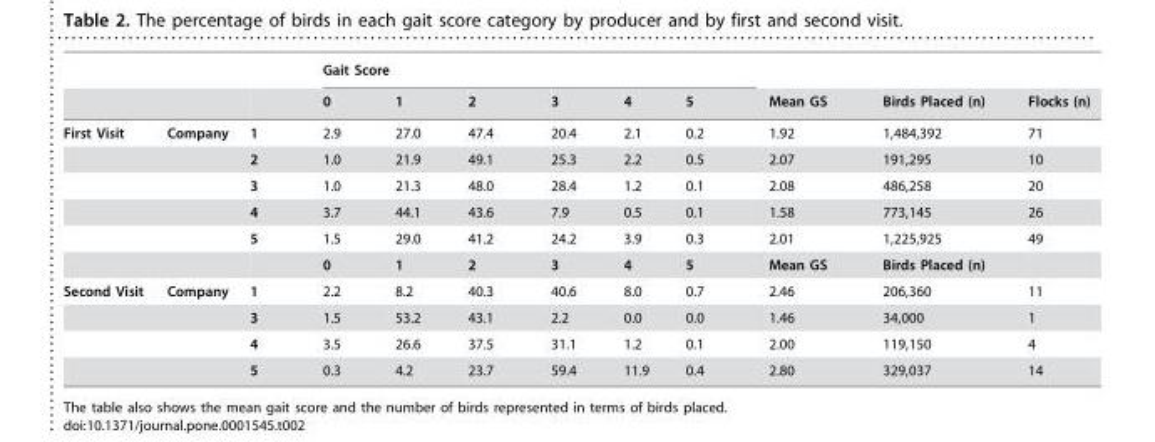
<table><thead><tr><td rowspan="2"></td><td rowspan="2"></td><td rowspan="2"></td><td colspan="6">Gait Score</td><td rowspan="2">Mean GS</td><td rowspan="2">Birds Placed (n)</td><td rowspan="2">Flocks (n)</td></tr><tr><td>0</td><td>1</td><td>2</td><td>3</td><td>4</td><td>5</td></tr></thead><tbody><tr><td rowspan="6">First Visit</td><td>Company</td><td>1</td><td>2.9</td><td>27.0</td><td>47.4</td><td>20.4</td><td>2.1</td><td>0.2</td><td>1.92</td><td>1,484,392</td><td>71</td></tr><tr><td></td><td>2</td><td>1.0</td><td>21.9</td><td>49.1</td><td>25.3</td><td>2.2</td><td>0.5</td><td>2.07</td><td>191,295</td><td>10</td></tr><tr><td></td><td>3</td><td>1.0</td><td>21.3</td><td>48.0</td><td>28.4</td><td>1.2</td><td>0.1</td><td>2.08</td><td>486,258</td><td>20</td></tr><tr><td></td><td>4</td><td>3.7</td><td>44.1</td><td>43.6</td><td>7.9</td><td>0.5</td><td>0.1</td><td>1.58</td><td>773,145</td><td>26</td></tr><tr><td></td><td>5</td><td>1.5</td><td>29.0</td><td>41.2</td><td>24.2</td><td>3.9</td><td>0.3</td><td>2.01</td><td>1,225,925</td><td>49</td></tr><tr><td></td><td></td><td>0</td><td>1</td><td>2</td><td>3</td><td>4</td><td>5</td><td>Mean GS</td><td>Birds Placed (n)</td><td></td></tr><tr><td rowspan="4">Second Visit</td><td>Company</td><td>1</td><td>2.2</td><td>8.2</td><td>40.3</td><td>40.6</td><td>8.0</td><td>0.7</td><td>2.46</td><td>206,360</td><td>11</td></tr><tr><td></td><td>3</td><td>1.5</td><td>53.2</td><td>43.1</td><td>2.2</td><td>0.0</td><td>0.0</td><td>1.46</td><td>34,000</td><td>1</td></tr><tr><td></td><td>4</td><td>3.5</td><td>26.6</td><td>37.5</td><td>31.1</td><td>1.2</td><td>0.1</td><td>2.00</td><td>119,150</td><td>4</td></tr><tr><td></td><td>5</td><td>0.3</td><td>4.2</td><td>23.7</td><td>59.4</td><td>11.9</td><td>0.4</td><td>2.80</td><td>329,037</td><td>14</td></tr></tbody></table>